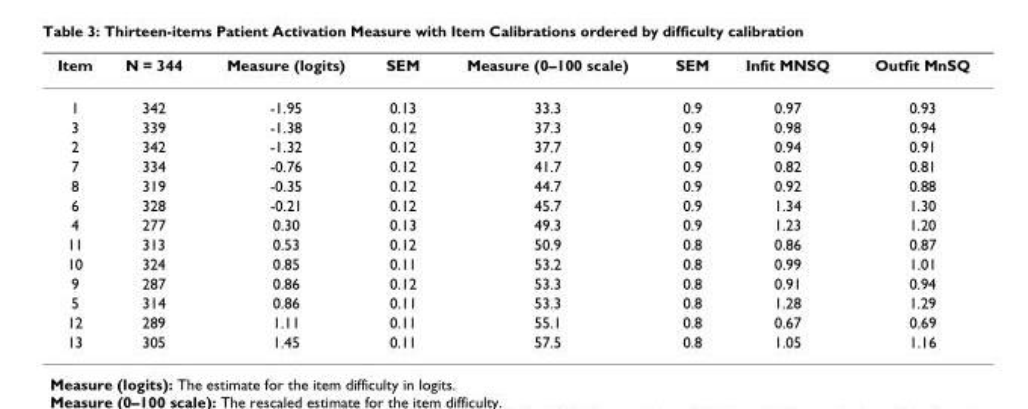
<table><thead><tr><td>Item</td><td>N = 344</td><td>Measure (logits)</td><td>SEM</td><td>Measure (0–100 scale)</td><td>SEM</td><td>Infit MNSQ</td><td>Outfit MnSQ</td></tr></thead><tbody><tr><td>1</td><td>342</td><td>-1.95</td><td>0.13</td><td>33.3</td><td>0.9</td><td>0.97</td><td>0.93</td></tr><tr><td>3</td><td>339</td><td>-1.38</td><td>0.12</td><td>37.3</td><td>0.9</td><td>0.98</td><td>0.94</td></tr><tr><td>2</td><td>342</td><td>-1.32</td><td>0.12</td><td>37.7</td><td>0.9</td><td>0.94</td><td>0.91</td></tr><tr><td>7</td><td>334</td><td>-0.76</td><td>0.12</td><td>41.7</td><td>0.9</td><td>0.82</td><td>0.81</td></tr><tr><td>8</td><td>319</td><td>-0.35</td><td>0.12</td><td>44.7</td><td>0.9</td><td>0.92</td><td>0.88</td></tr><tr><td>6</td><td>328</td><td>-0.21</td><td>0.12</td><td>45.7</td><td>0.9</td><td>1.34</td><td>1.30</td></tr><tr><td>4</td><td>277</td><td>0.30</td><td>0.13</td><td>49.3</td><td>0.9</td><td>1.23</td><td>1.20</td></tr><tr><td>11</td><td>313</td><td>0.53</td><td>0.12</td><td>50.9</td><td>0.8</td><td>0.86</td><td>0.87</td></tr><tr><td>10</td><td>324</td><td>0.85</td><td>0.11</td><td>53.2</td><td>0.8</td><td>0.99</td><td>1.01</td></tr><tr><td>9</td><td>287</td><td>0.86</td><td>0.12</td><td>53.3</td><td>0.8</td><td>0.91</td><td>0.94</td></tr><tr><td>5</td><td>314</td><td>0.86</td><td>0.11</td><td>53.3</td><td>0.8</td><td>1.28</td><td>1.29</td></tr><tr><td>12</td><td>289</td><td>1.11</td><td>0.11</td><td>55.1</td><td>0.8</td><td>0.67</td><td>0.69</td></tr><tr><td>13</td><td>305</td><td>1.45</td><td>0.11</td><td>57.5</td><td>0.8</td><td>1.05</td><td>1.16</td></tr></tbody></table>